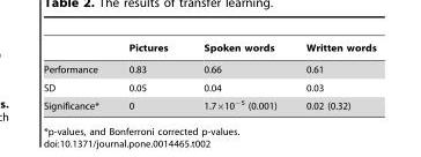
<table><thead><tr><td></td><td>Pictures</td><td>Spoken words</td><td>Written words</td></tr></thead><tbody><tr><td>Performance</td><td>0.83</td><td>0.66</td><td>0.61</td></tr><tr><td>SD</td><td>0.05</td><td>0.04</td><td>0.03</td></tr><tr><td>Significance*</td><td>0</td><td>1.7×10<sup>−5</sup> (0.001)</td><td>0.02 (0.32)</td></tr></tbody></table>